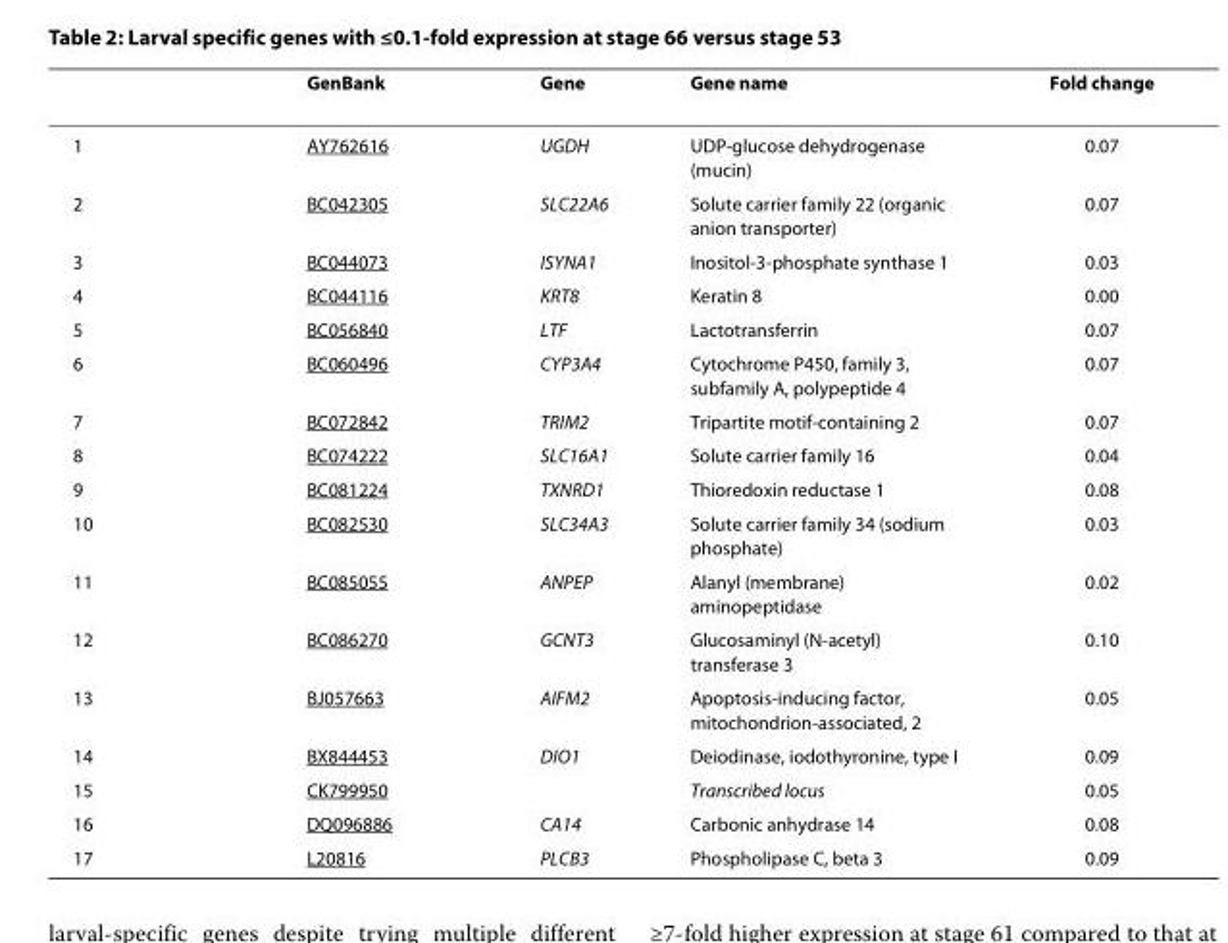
<table><thead><tr><td></td><td>GenBank</td><td>Gene</td><td>Gene name</td><td>Fold change</td></tr></thead><tbody><tr><td>1</td><td>AY762616</td><td>UGDH</td><td>UDP-glucose dehydrogenase (mucin)</td><td>0.07</td></tr><tr><td>2</td><td>BC042305</td><td>SLC22A6</td><td>Solute carrier family 22 (organic anion transporter)</td><td>0.07</td></tr><tr><td>3</td><td>BC044073</td><td>ISYNA1</td><td>Inositol-3-phosphate synthase 1</td><td>0.03</td></tr><tr><td>4</td><td>BC044116</td><td>KRT8</td><td>Keratin 8</td><td>0.00</td></tr><tr><td>5</td><td>BC056840</td><td>LTF</td><td>Lactotransferrin</td><td>0.07</td></tr><tr><td>6</td><td>BC060496</td><td>CYP3A4</td><td>Cytochrome P450, family 3, subfamily A, polypeptide 4</td><td>0.07</td></tr><tr><td>7</td><td>BC072842</td><td>TRIM2</td><td>Tripartite motif-containing 2</td><td>0.07</td></tr><tr><td>8</td><td>BC074222</td><td>SLC16A1</td><td>Solute carrier family 16</td><td>0.04</td></tr><tr><td>9</td><td>BC081224</td><td>TXNRD1</td><td>Thioredoxin reductase 1</td><td>0.08</td></tr><tr><td>10</td><td>BC082530</td><td>SLC34A3</td><td>Solute carrier family 34 (sodium phosphate)</td><td>0.03</td></tr><tr><td>11</td><td>BC085055</td><td>ANPEP</td><td>Alanyl (membrane) aminopeptidase</td><td>0.02</td></tr><tr><td>12</td><td>BC086270</td><td>GCNT3</td><td>Glucosaminyl (N-acetyl) transferase 3</td><td>0.10</td></tr><tr><td>13</td><td>BJ057663</td><td>AIFM2</td><td>Apoptosis-inducing factor, mitochondrion-associated, 2</td><td>0.05</td></tr><tr><td>14</td><td>BX844453</td><td>DIO1</td><td>Deiodinase, iodothyronine, type I</td><td>0.09</td></tr><tr><td>15</td><td>CK799950</td><td></td><td>Transcribed locus</td><td>0.05</td></tr><tr><td>16</td><td>DQ096886</td><td>CA14</td><td>Carbonic anhydrase 14</td><td>0.08</td></tr><tr><td>17</td><td>L20816</td><td>PLCB3</td><td>Phospholipase C, beta 3</td><td>0.09</td></tr></tbody></table>